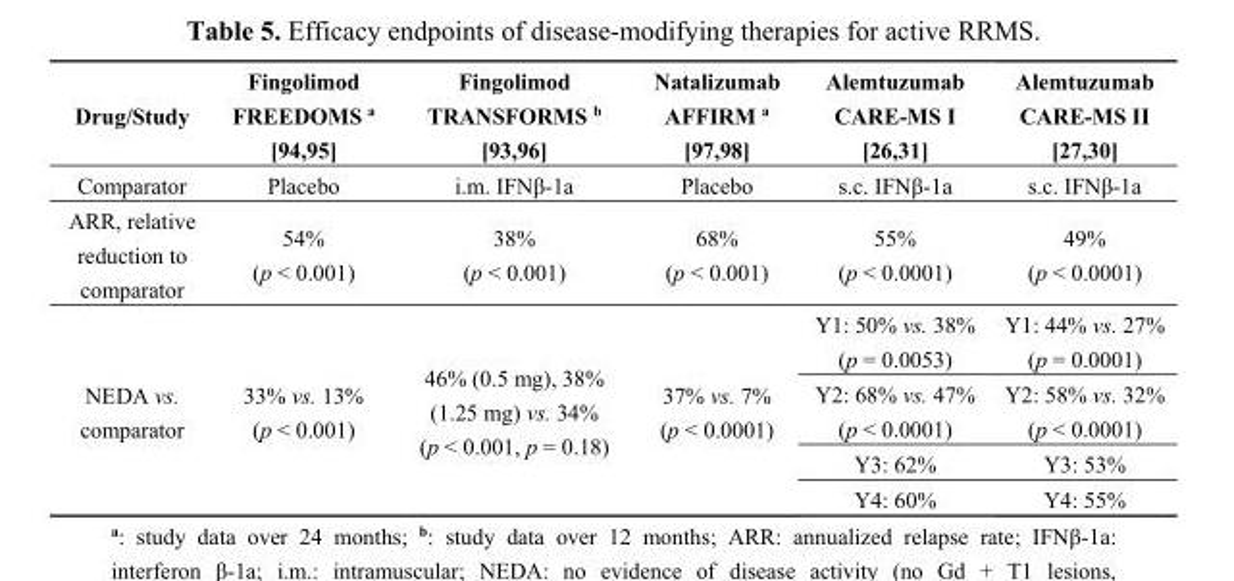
<table><thead><tr><td>Drug/Study</td><td>Fingolimod FREEDOMS <sup>a</sup> [94,95]</td><td>Fingolimod TRANSFORMS <sup>b</sup> [93,96]</td><td>Natalizumab AFFIRM <sup>a</sup> [97,98]</td><td>Alemtuzumab CARE-MS I [26,31]</td><td>Alemtuzumab CARE-MS II [27,30]</td></tr></thead><tbody><tr><td>Comparator</td><td>Placebo</td><td>i.m. IFNβ-1a</td><td>Placebo</td><td>s.c. IFNβ-1a</td><td>s.c. IFNβ-1a</td></tr><tr><td>ARR, relative reduction to comparator</td><td>54% (p &lt; 0.001)</td><td>38% (p &lt; 0.001)</td><td>68% (p &lt; 0.001)</td><td>55% (p &lt; 0.0001)</td><td>49% (p &lt; 0.0001)</td></tr><tr><td rowspan="4">NEDA vs. comparator</td><td rowspan="4">33% vs. 13% (p &lt; 0.001)</td><td rowspan="4">46% (0.5 mg), 38% (1.25 mg) vs. 34% (p &lt; 0.001, p = 0.18)</td><td rowspan="4">37% vs. 7% (p &lt; 0.0001)</td><td>Y1: 50% vs. 38% (p = 0.0053)</td><td>Y1: 44% vs. 27% (p = 0.0001)</td></tr><tr><td>Y2: 68% vs. 47% (p &lt; 0.0001)</td><td>Y2: 58% vs. 32% (p &lt; 0.0001)</td></tr><tr><td>Y3: 62%</td><td>Y3: 53%</td></tr><tr><td>Y4: 60%</td><td>Y4: 55%</td></tr></tbody></table>